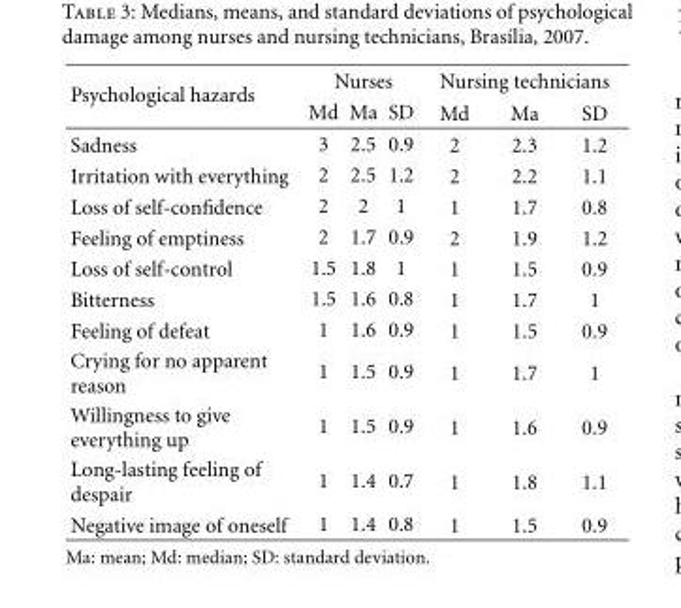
<table><thead><tr><td rowspan="2">Psychological hazards</td><td colspan="3">Nurses</td><td colspan="3">Nursing technicians</td></tr><tr><td>Md</td><td>Ma</td><td>SD</td><td>Md</td><td>Ma</td><td>SD</td></tr></thead><tbody><tr><td>Sadness</td><td>3</td><td>2.5</td><td>0.9</td><td>2</td><td>2.3</td><td>1.2</td></tr><tr><td>Irritation with everything</td><td>2</td><td>2.5</td><td>1.2</td><td>2</td><td>2.2</td><td>1.1</td></tr><tr><td>Loss of self-confidence</td><td>2</td><td>2</td><td>1</td><td>1</td><td>1.7</td><td>0.8</td></tr><tr><td>Feeling of emptiness</td><td>2</td><td>1.7</td><td>0.9</td><td>2</td><td>1.9</td><td>1.2</td></tr><tr><td>Loss of self-control</td><td>1.5</td><td>1.8</td><td>1</td><td>1</td><td>1.5</td><td>0.9</td></tr><tr><td>Bitterness</td><td>1.5</td><td>1.6</td><td>0.8</td><td>1</td><td>1.7</td><td>1</td></tr><tr><td>Feeling of defeat</td><td>1</td><td>1.6</td><td>0.9</td><td>1</td><td>1.5</td><td>0.9</td></tr><tr><td>Crying for no apparent reason</td><td>1</td><td>1.5</td><td>0.9</td><td>1</td><td>1.7</td><td>1</td></tr><tr><td>Willingness to give everything up</td><td>1</td><td>1.5</td><td>0.9</td><td>1</td><td>1.6</td><td>0.9</td></tr><tr><td>Long-lasting feeling of despair</td><td>1</td><td>1.4</td><td>0.7</td><td>1</td><td>1.8</td><td>1.1</td></tr><tr><td>Negative image of oneself</td><td>1</td><td>1.4</td><td>0.8</td><td>1</td><td>1.5</td><td>0.9</td></tr></tbody></table>